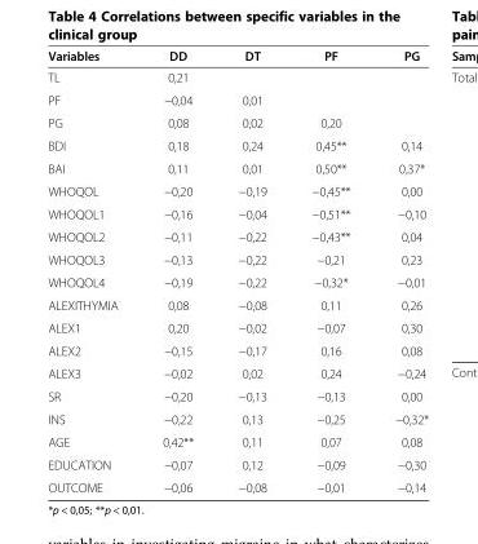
<table><thead><tr><td>Variables</td><td>DD</td><td>DT</td><td>PF</td><td>PG</td></tr></thead><tbody><tr><td>TL</td><td>0,21</td><td></td><td></td><td></td></tr><tr><td>PF</td><td>−0,04</td><td>0,01</td><td></td><td></td></tr><tr><td>PG</td><td>0,08</td><td>0,02</td><td>0,20</td><td></td></tr><tr><td>BDI</td><td>0,18</td><td>0,24</td><td>0,45**</td><td>0,14</td></tr><tr><td>BAI</td><td>0,11</td><td>0,01</td><td>0,50**</td><td>0,37*</td></tr><tr><td>WHOQOL</td><td>−0,20</td><td>−0,19</td><td>−0,45**</td><td>0,00</td></tr><tr><td>WHOQOL1</td><td>−0,16</td><td>−0,04</td><td>−0,51**</td><td>−0,10</td></tr><tr><td>WHOQOL2</td><td>−0,11</td><td>−0,22</td><td>−0,43**</td><td>0,04</td></tr><tr><td>WHOQOL3</td><td>−0,13</td><td>−0,22</td><td>−0,21</td><td>0,23</td></tr><tr><td>WHOQOL4</td><td>−0,19</td><td>−0,22</td><td>−0,32*</td><td>−0,01</td></tr><tr><td>ALEXITHYMIA</td><td>0,08</td><td>−0,08</td><td>0,11</td><td>0,26</td></tr><tr><td>ALEX1</td><td>0,20</td><td>−0,02</td><td>−0,07</td><td>0,30</td></tr><tr><td>ALEX2</td><td>−0,15</td><td>−0,17</td><td>0,16</td><td>0,08</td></tr><tr><td>ALEX3</td><td>−0,02</td><td>0,02</td><td>0,24</td><td>−0,24</td></tr><tr><td>SR</td><td>−0,20</td><td>−0,13</td><td>−0,13</td><td>0,00</td></tr><tr><td>INS</td><td>−0,22</td><td>0,13</td><td>−0,25</td><td>−0,32*</td></tr><tr><td>AGE</td><td>0,42**</td><td>0,11</td><td>0,07</td><td>0,08</td></tr><tr><td>EDUCATION</td><td>−0,07</td><td>0,12</td><td>−0,09</td><td>−0,30</td></tr><tr><td>OUTCOME</td><td>−0,06</td><td>−0,08</td><td>−0,01</td><td>−0,14</td></tr></tbody></table>